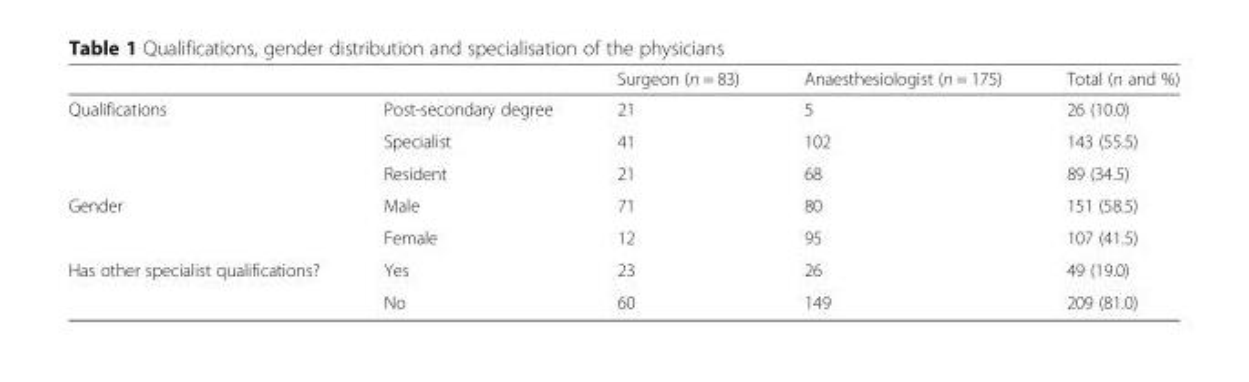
<table><thead><tr><td></td><td></td><td>Surgeon (n = 83)</td><td>Anaesthesiologist (n = 175)</td><td>Total (n and %)</td></tr></thead><tbody><tr><td rowspan="3">Qualifications</td><td>Post-secondary degree</td><td>21</td><td>5</td><td>26 (10.0)</td></tr><tr><td>Specialist</td><td>41</td><td>102</td><td>143 (55.5)</td></tr><tr><td>Resident</td><td>21</td><td>68</td><td>89 (34.5)</td></tr><tr><td rowspan="2">Gender</td><td>Male</td><td>71</td><td>80</td><td>151 (58.5)</td></tr><tr><td>Female</td><td>12</td><td>95</td><td>107 (41.5)</td></tr><tr><td rowspan="2">Has other specialist qualifications?</td><td>Yes</td><td>23</td><td>26</td><td>49 (19.0)</td></tr><tr><td>No</td><td>60</td><td>149</td><td>209 (81.0)</td></tr></tbody></table>